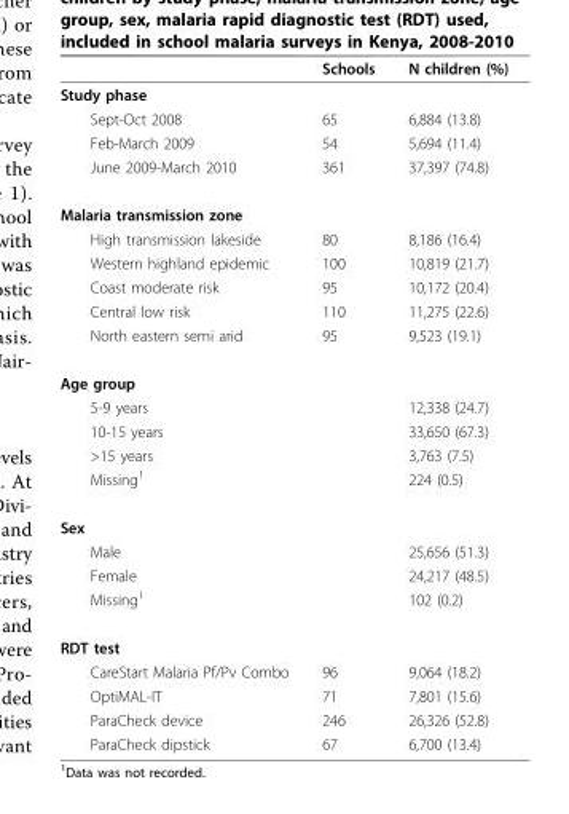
<table><thead><tr><td></td><td>Schools</td><td>N children (%)</td></tr></thead><tbody><tr><td colspan="3">Study phase</td></tr><tr><td>Sept-Oct 2008</td><td>65</td><td>6,884 (13.8)</td></tr><tr><td>Feb-March 2009</td><td>54</td><td>5,694 (11.4)</td></tr><tr><td>June 2009-March 2010</td><td>361</td><td>37,397 (74.8)</td></tr><tr><td colspan="3">Malaria transmission zone</td></tr><tr><td>High transmission lakeside</td><td>80</td><td>8,186 (16.4)</td></tr><tr><td>Western highland epidemic</td><td>100</td><td>10,819 (21.7)</td></tr><tr><td>Coast moderate risk</td><td>95</td><td>10,172 (20.4)</td></tr><tr><td>Central low risk</td><td>110</td><td>11,275 (22.6)</td></tr><tr><td>North eastern semi arid</td><td>95</td><td>9,523 (19.1)</td></tr><tr><td colspan="3">Age group</td></tr><tr><td>5-9 years</td><td></td><td>12,338 (24.7)</td></tr><tr><td>10-15 years</td><td></td><td>33,650 (67.3)</td></tr><tr><td>&gt;15 years</td><td></td><td>3,763 (7.5)</td></tr><tr><td>Missing<sup>1</sup></td><td></td><td>224 (0.5)</td></tr><tr><td colspan="3">Sex</td></tr><tr><td>Male</td><td></td><td>25,656 (51.3)</td></tr><tr><td>Female</td><td></td><td>24,217 (48.5)</td></tr><tr><td>Missing<sup>1</sup></td><td></td><td>102 (0.2)</td></tr><tr><td colspan="3">RDT test</td></tr><tr><td>CareStart Malaria Pf/Pv Combo</td><td>96</td><td>9,064 (18.2)</td></tr><tr><td>OptiMAL-IT</td><td>71</td><td>7,801 (15.6)</td></tr><tr><td>ParaCheck device</td><td>246</td><td>26,326 (52.8)</td></tr><tr><td>ParaCheck dipstick</td><td>67</td><td>6,700 (13.4)</td></tr></tbody></table>